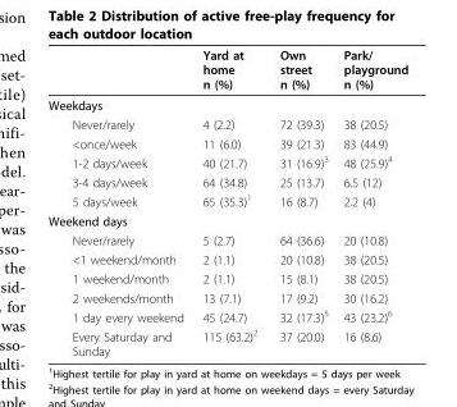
<table><thead><tr><td></td><td>Yard at home n (%)</td><td>Own street n (%)</td><td>Park/ playground n (%)</td></tr></thead><tbody><tr><td colspan="4">Weekdays</td></tr><tr><td>Never/rarely</td><td>4 (2.2)</td><td>72 (39.3)</td><td>38 (20.5)</td></tr><tr><td>&lt;once/week</td><td>11 (6.0)</td><td>39 (21.3)</td><td>83 (44.9)</td></tr><tr><td>1-2 days/week</td><td>40 (21.7)</td><td>31 (16.9)<sup>3</sup></td><td>48 (25.9)<sup>4</sup></td></tr><tr><td>3-4 days/week</td><td>64 (34.8)</td><td>25 (13.7)</td><td>6.5 (12)</td></tr><tr><td>5 days/week</td><td>65 (35.3)<sup>1</sup></td><td>16 (8.7)</td><td>2.2 (4)</td></tr><tr><td colspan="4">Weekend days</td></tr><tr><td>Never/rarely</td><td>5 (2.7)</td><td>64 (36.6)</td><td>20 (10.8)</td></tr><tr><td>&lt;1 weekend/month</td><td>2 (1.1)</td><td>20 (10.8)</td><td>38 (20.5)</td></tr><tr><td>1 weekend/month</td><td>2 (1.1)</td><td>15 (8.1)</td><td>38 (20.5)</td></tr><tr><td>2 weekends/month</td><td>13 (7.1)</td><td>17 (9.2)</td><td>30 (16.2)</td></tr><tr><td>1 day every weekend</td><td>45 (24.7)</td><td>32 (17.3)<sup>5</sup></td><td>43 (23.2)<sup>6</sup></td></tr><tr><td>Every Saturday and Sunday</td><td>115 (63.2)<sup>2</sup></td><td>37 (20.0)</td><td>16 (8.6)</td></tr></tbody></table>